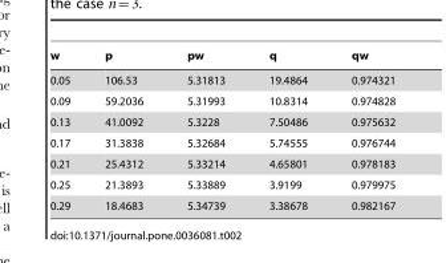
<table><thead><tr><td>w</td><td>p</td><td>pw</td><td>q</td><td>qw</td></tr></thead><tbody><tr><td>0.05</td><td>106.53</td><td>5.31813</td><td>19.4864</td><td>0.974321</td></tr><tr><td>0.09</td><td>59.2036</td><td>5.31993</td><td>10.8314</td><td>0.974828</td></tr><tr><td>0.13</td><td>41.0092</td><td>5.3228</td><td>7.50486</td><td>0.975632</td></tr><tr><td>0.17</td><td>31.3838</td><td>5.32684</td><td>5.74555</td><td>0.976744</td></tr><tr><td>0.21</td><td>25.4312</td><td>5.33214</td><td>4.65801</td><td>0.978183</td></tr><tr><td>0.25</td><td>21.3893</td><td>5.33889</td><td>3.9199</td><td>0.979975</td></tr><tr><td>0.29</td><td>18.4683</td><td>5.34739</td><td>3.38678</td><td>0.982167</td></tr></tbody></table>